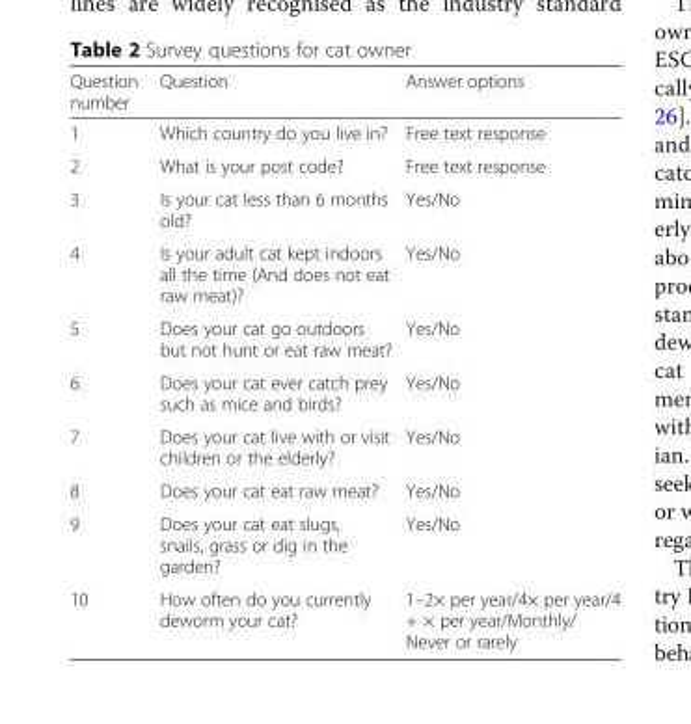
<table><thead><tr><td>Question number</td><td>Question</td><td>Answer options</td></tr></thead><tbody><tr><td>1</td><td>Which country do you live in?</td><td>Free text response</td></tr><tr><td>2</td><td>What is your post code?</td><td>Free text response</td></tr><tr><td>3</td><td>Is your cat less than 6 months old?</td><td>Yes/No</td></tr><tr><td>4</td><td>Is your adult cat kept indoors all the time (And does not eat raw meat)?</td><td>Yes/No</td></tr><tr><td>5</td><td>Does your cat go outdoors but not hunt or eat raw meat?</td><td>Yes/No</td></tr><tr><td>6</td><td>Does your cat ever catch prey such as mice and birds?</td><td>Yes/No</td></tr><tr><td>7</td><td>Does your cat live with or visit children or the elderly?</td><td>Yes/No</td></tr><tr><td>8</td><td>Does your cat eat raw meat?</td><td>Yes/No</td></tr><tr><td>9</td><td>Does your cat eat slugs, snails, grass or dig in the garden?</td><td>Yes/No</td></tr><tr><td>10</td><td>How often do you currently deworm your cat?</td><td>1–2× per year/4× per year/4 + × per year/Monthly/ Never or rarely</td></tr></tbody></table>